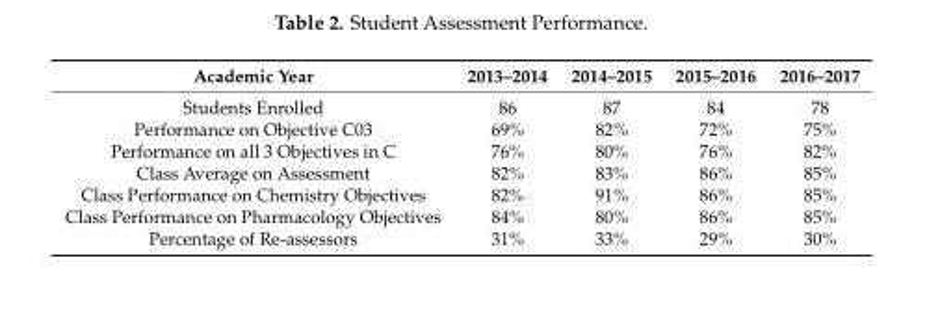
<table><thead><tr><td>Academic Year</td><td>2013–2014</td><td>2014–2015</td><td>2015–2016</td><td>2016–2017</td></tr></thead><tbody><tr><td>Students Enrolled</td><td>86</td><td>87</td><td>84</td><td>78</td></tr><tr><td>Performance on Objective C03</td><td>69%</td><td>82%</td><td>72%</td><td>75%</td></tr><tr><td>Performance on all 3 Objectives in C</td><td>76%</td><td>80%</td><td>76%</td><td>82%</td></tr><tr><td>Class Average on Assessment</td><td>82%</td><td>83%</td><td>86%</td><td>85%</td></tr><tr><td>Class Performance on Chemistry Objectives</td><td>82%</td><td>91%</td><td>86%</td><td>85%</td></tr><tr><td>Class Performance on Pharmacology Objectives</td><td>84%</td><td>80%</td><td>86%</td><td>85%</td></tr><tr><td>Percentage of Re-assessors</td><td>31%</td><td>33%</td><td>29%</td><td>30%</td></tr></tbody></table>